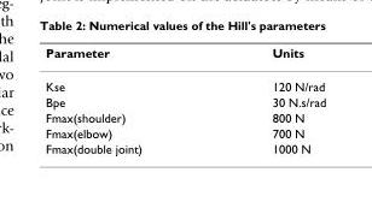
<table><thead><tr><td>Parameter</td><td>Units</td></tr></thead><tbody><tr><td>Kse</td><td>120 N/rad</td></tr><tr><td>Bpe</td><td>30 N.s/rad</td></tr><tr><td>Fmax(shoulder)</td><td>800 N</td></tr><tr><td>Fmax(elbow)</td><td>700 N</td></tr><tr><td>Fmax(double joint)</td><td>1000 N</td></tr></tbody></table>